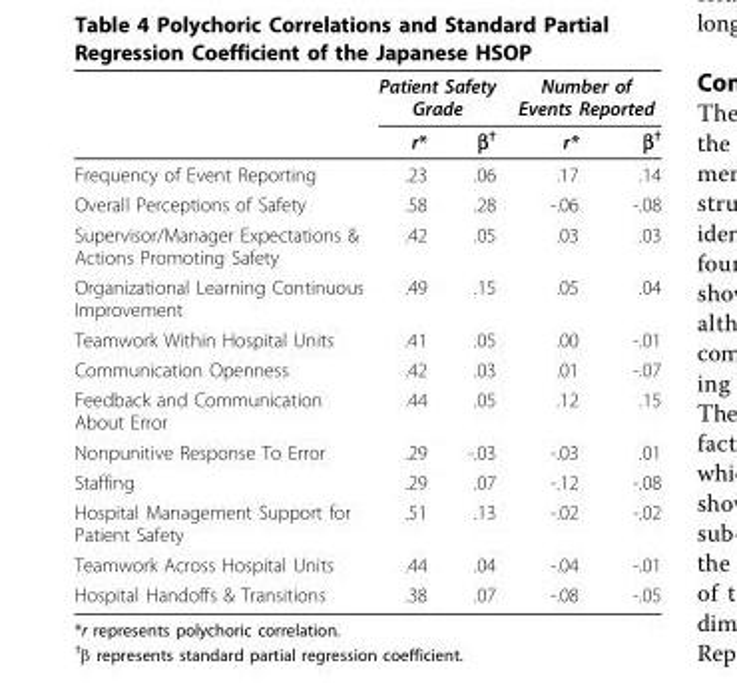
<table><thead><tr><td rowspan="2"></td><td colspan="2">Patient Safety Grade</td><td colspan="2">Number of Events Reported</td></tr><tr><td>r*</td><td>β<sup>†</sup></td><td>r*</td><td>β<sup>†</sup></td></tr></thead><tbody><tr><td>Frequency of Event Reporting</td><td>.23</td><td>.06</td><td>.17</td><td>.14</td></tr><tr><td>Overall Perceptions of Safety</td><td>.58</td><td>.28</td><td>-.06</td><td>-.08</td></tr><tr><td>Supervisor/Manager Expectations &amp; Actions Promoting Safety</td><td>.42</td><td>.05</td><td>.03</td><td>.03</td></tr><tr><td>Organizational Learning Continuous Improvement</td><td>.49</td><td>.15</td><td>.05</td><td>.04</td></tr><tr><td>Teamwork Within Hospital Units</td><td>.41</td><td>.05</td><td>.00</td><td>-.01</td></tr><tr><td>Communication Openness</td><td>.42</td><td>.03</td><td>.01</td><td>-.07</td></tr><tr><td>Feedback and Communication About Error</td><td>.44</td><td>.05</td><td>.12</td><td>.15</td></tr><tr><td>Nonpunitive Response To Error</td><td>.29</td><td>-.03</td><td>-.03</td><td>.01</td></tr><tr><td>Staffing</td><td>.29</td><td>.07</td><td>-.12</td><td>-.08</td></tr><tr><td>Hospital Management Support for Patient Safety</td><td>.51</td><td>.13</td><td>-.02</td><td>-.02</td></tr><tr><td>Teamwork Across Hospital Units</td><td>.44</td><td>.04</td><td>-.04</td><td>-.01</td></tr><tr><td>Hospital Handoffs &amp; Transitions</td><td>.38</td><td>.07</td><td>-.08</td><td>-.05</td></tr></tbody></table>